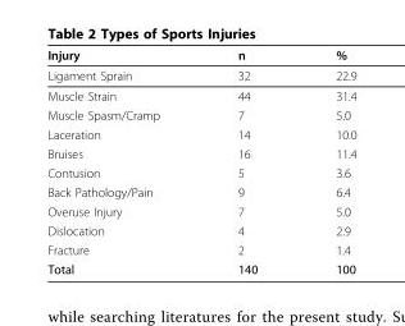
<table><thead><tr><td>Injury</td><td>n</td><td>%</td></tr></thead><tbody><tr><td>Ligament Sprain</td><td>32</td><td>22.9</td></tr><tr><td>Muscle Strain</td><td>44</td><td>31.4</td></tr><tr><td>Muscle Spasm/Cramp</td><td>7</td><td>5.0</td></tr><tr><td>Laceration</td><td>14</td><td>10.0</td></tr><tr><td>Bruises</td><td>16</td><td>11.4</td></tr><tr><td>Contusion</td><td>5</td><td>3.6</td></tr><tr><td>Back Pathology/Pain</td><td>9</td><td>6.4</td></tr><tr><td>Overuse Injury</td><td>7</td><td>5.0</td></tr><tr><td>Dislocation</td><td>4</td><td>2.9</td></tr><tr><td>Fracture</td><td>2</td><td>1.4</td></tr><tr><td>Total</td><td>140</td><td>100</td></tr></tbody></table>